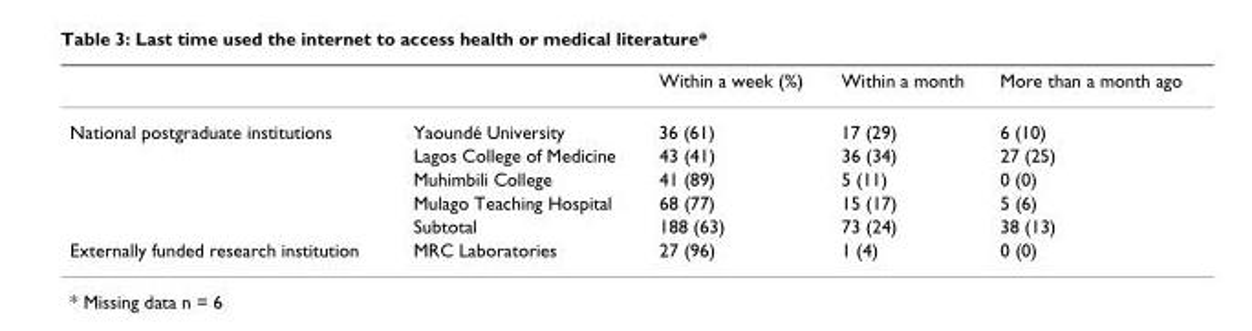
<table><thead><tr><td></td><td></td><td>Within a week (%)</td><td>Within a month</td><td>More than a month ago</td></tr></thead><tbody><tr><td rowspan="5">National postgraduate institutions</td><td>Yaoundé University</td><td>36 (61)</td><td>17 (29)</td><td>6 (10)</td></tr><tr><td>Lagos College of Medicine</td><td>43 (41)</td><td>36 (34)</td><td>27 (25)</td></tr><tr><td>Muhimbili College</td><td>41 (89)</td><td>5 (11)</td><td>0 (0)</td></tr><tr><td>Mulago Teaching Hospital</td><td>68 (77)</td><td>15 (17)</td><td>5 (6)</td></tr><tr><td>Subtotal</td><td>188 (63)</td><td>73 (24)</td><td>38 (13)</td></tr><tr><td>Externally funded research institution</td><td>MRC Laboratories</td><td>27 (96)</td><td>1 (4)</td><td>0 (0)</td></tr></tbody></table>